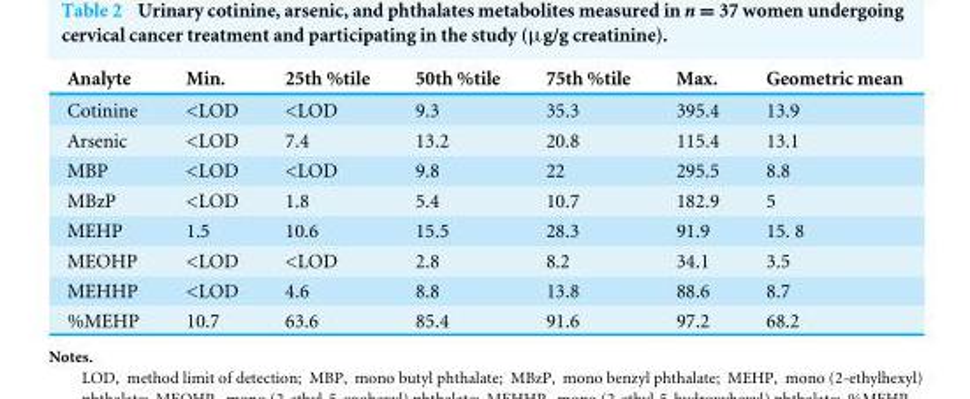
<table><thead><tr><td>Analyte</td><td>Min.</td><td>25th %tile</td><td>50th %tile</td><td>75th %tile</td><td>Max.</td><td>Geometric mean</td></tr></thead><tbody><tr><td>Cotinine</td><td>&lt;LOD</td><td>&lt;LOD</td><td>9.3</td><td>35.3</td><td>395.4</td><td>13.9</td></tr><tr><td>Arsenic</td><td>&lt;LOD</td><td>7.4</td><td>13.2</td><td>20.8</td><td>115.4</td><td>13.1</td></tr><tr><td>MBP</td><td>&lt;LOD</td><td>&lt;LOD</td><td>9.8</td><td>22</td><td>295.5</td><td>8.8</td></tr><tr><td>MBzP</td><td>&lt;LOD</td><td>1.8</td><td>5.4</td><td>10.7</td><td>182.9</td><td>5</td></tr><tr><td>MEHP</td><td>1.5</td><td>10.6</td><td>15.5</td><td>28.3</td><td>91.9</td><td>15. 8</td></tr><tr><td>MEOHP</td><td>&lt;LOD</td><td>&lt;LOD</td><td>2.8</td><td>8.2</td><td>34.1</td><td>3.5</td></tr><tr><td>MEHHP</td><td>&lt;LOD</td><td>4.6</td><td>8.8</td><td>13.8</td><td>88.6</td><td>8.7</td></tr><tr><td>%MEHP</td><td>10.7</td><td>63.6</td><td>85.4</td><td>91.6</td><td>97.2</td><td>68.2</td></tr></tbody></table>